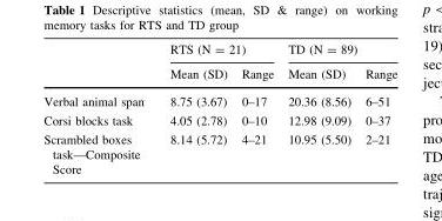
<table><thead><tr><td rowspan="2"></td><td colspan="2">RTS (N = 21)</td><td colspan="2">TD (N = 89)</td></tr><tr><td>Mean (SD)</td><td>Range</td><td>Mean (SD)</td><td>Range</td></tr></thead><tbody><tr><td>Verbal animal span</td><td>8.75 (3.67)</td><td>0–17</td><td>20.36 (8.56)</td><td>6–51</td></tr><tr><td>Corsi blocks task</td><td>4.05 (2.78)</td><td>0–10</td><td>12.98 (9.09)</td><td>0–37</td></tr><tr><td>Scrambled boxes task—Composite Score</td><td>8.14 (5.72)</td><td>4–21</td><td>10.95 (5.50)</td><td>2–21</td></tr></tbody></table>